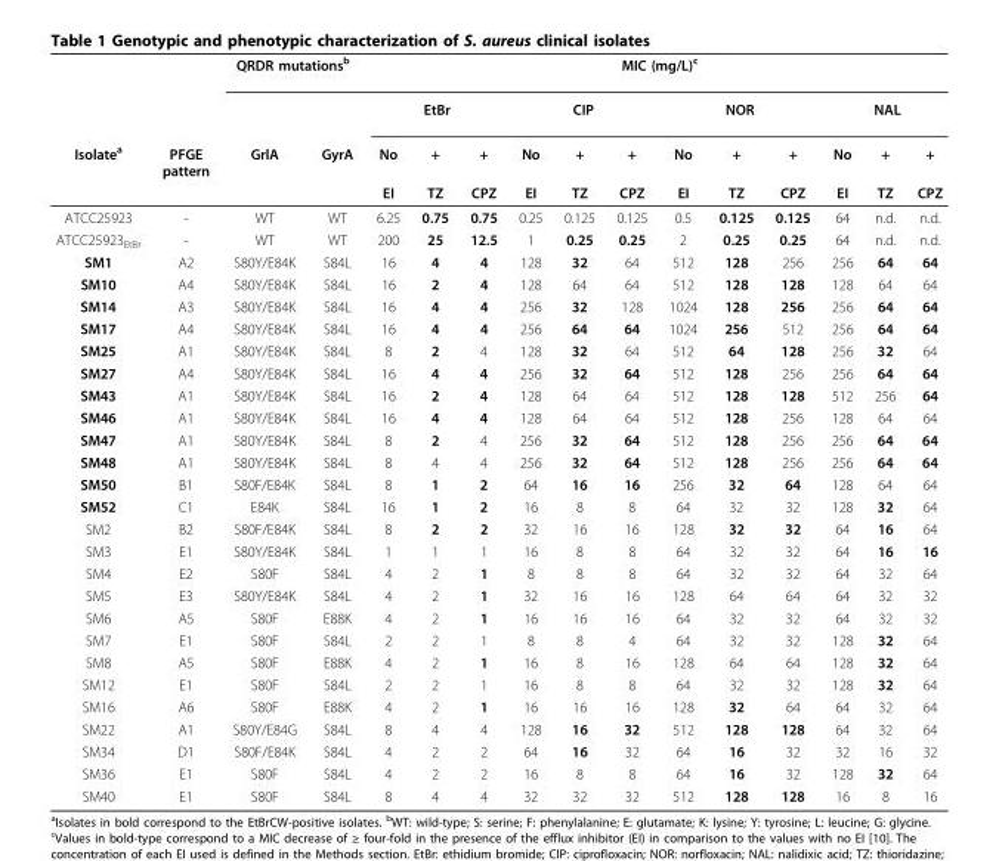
<table><thead><tr><td rowspan="4">Isolate<sup>a</sup></td><td rowspan="4">PFGE pattern</td><td colspan="2">QRDR mutations<sup>b</sup></td><td colspan="12">MIC (mg/L)<sup>c</sup></td></tr><tr><td rowspan="3">GrlA</td><td rowspan="3">GyrA</td><td colspan="3">EtBr</td><td colspan="3">CIP</td><td colspan="3">NOR</td><td colspan="3">NAL</td></tr><tr><td rowspan="2">No EI</td><td rowspan="2">+ TZ</td><td rowspan="2">+ CPZ</td><td rowspan="2">No EI</td><td rowspan="2">+ TZ</td><td rowspan="2">+ CPZ</td><td rowspan="2">No EI</td><td rowspan="2">+ TZ</td><td rowspan="2">+ CPZ</td><td rowspan="2">No EI</td><td rowspan="2">+ TZ</td><td rowspan="2">+ CPZ</td></tr><tr></tr></thead><tbody><tr><td>ATCC25923</td><td>-</td><td>WT</td><td>WT</td><td>6.25</td><td>0.75</td><td>0.75</td><td>0.25</td><td>0.125</td><td>0.125</td><td>0.5</td><td>0.125</td><td>0.125</td><td>64</td><td>n.d.</td><td>n.d.</td></tr><tr><td>ATCC25923<sub>EtBr</sub></td><td>-</td><td>WT</td><td>WT</td><td>200</td><td>25</td><td>12.5</td><td>1</td><td>0.25</td><td>0.25</td><td>2</td><td>0.25</td><td>0.25</td><td>64</td><td>n.d.</td><td>n.d.</td></tr><tr><td>SM1</td><td>A2</td><td>S80Y/E84K</td><td>S84L</td><td>16</td><td>4</td><td>4</td><td>128</td><td>32</td><td>64</td><td>512</td><td>128</td><td>256</td><td>256</td><td>64</td><td>64</td></tr><tr><td>SM10</td><td>A4</td><td>S80Y/E84K</td><td>S84L</td><td>16</td><td>2</td><td>4</td><td>128</td><td>64</td><td>64</td><td>512</td><td>128</td><td>128</td><td>128</td><td>64</td><td>64</td></tr><tr><td>SM14</td><td>A3</td><td>S80Y/E84K</td><td>S84L</td><td>16</td><td>4</td><td>4</td><td>256</td><td>32</td><td>128</td><td>1024</td><td>128</td><td>256</td><td>256</td><td>64</td><td>64</td></tr><tr><td>SM17</td><td>A4</td><td>S80Y/E84K</td><td>S84L</td><td>16</td><td>4</td><td>4</td><td>256</td><td>64</td><td>64</td><td>1024</td><td>256</td><td>512</td><td>256</td><td>64</td><td>64</td></tr><tr><td>SM25</td><td>A1</td><td>S80Y/E84K</td><td>S84L</td><td>8</td><td>2</td><td>4</td><td>128</td><td>32</td><td>64</td><td>512</td><td>64</td><td>128</td><td>256</td><td>32</td><td>64</td></tr><tr><td>SM27</td><td>A4</td><td>S80Y/E84K</td><td>S84L</td><td>16</td><td>4</td><td>4</td><td>256</td><td>32</td><td>64</td><td>512</td><td>128</td><td>256</td><td>256</td><td>64</td><td>64</td></tr><tr><td>SM43</td><td>A1</td><td>S80Y/E84K</td><td>S84L</td><td>16</td><td>2</td><td>4</td><td>128</td><td>64</td><td>64</td><td>512</td><td>128</td><td>128</td><td>512</td><td>256</td><td>64</td></tr><tr><td>SM46</td><td>A1</td><td>S80Y/E84K</td><td>S84L</td><td>16</td><td>4</td><td>4</td><td>128</td><td>64</td><td>64</td><td>512</td><td>128</td><td>256</td><td>128</td><td>64</td><td>64</td></tr><tr><td>SM47</td><td>A1</td><td>S80Y/E84K</td><td>S84L</td><td>8</td><td>2</td><td>4</td><td>256</td><td>32</td><td>64</td><td>512</td><td>128</td><td>256</td><td>256</td><td>64</td><td>64</td></tr><tr><td>SM48</td><td>A1</td><td>S80Y/E84K</td><td>S84L</td><td>8</td><td>4</td><td>4</td><td>256</td><td>32</td><td>64</td><td>512</td><td>128</td><td>256</td><td>256</td><td>64</td><td>64</td></tr><tr><td>SM50</td><td>B1</td><td>S80F/E84K</td><td>S84L</td><td>8</td><td>1</td><td>2</td><td>64</td><td>16</td><td>16</td><td>256</td><td>32</td><td>64</td><td>128</td><td>64</td><td>64</td></tr><tr><td>SM52</td><td>C1</td><td>E84K</td><td>S84L</td><td>16</td><td>1</td><td>2</td><td>16</td><td>8</td><td>8</td><td>64</td><td>32</td><td>32</td><td>128</td><td>32</td><td>64</td></tr><tr><td>SM2</td><td>B2</td><td>S80F/E84K</td><td>S84L</td><td>8</td><td>2</td><td>2</td><td>32</td><td>16</td><td>16</td><td>128</td><td>32</td><td>32</td><td>64</td><td>16</td><td>64</td></tr><tr><td>SM3</td><td>E1</td><td>S80Y/E84K</td><td>S84L</td><td>1</td><td>1</td><td>1</td><td>16</td><td>8</td><td>8</td><td>64</td><td>32</td><td>32</td><td>64</td><td>16</td><td>16</td></tr><tr><td>SM4</td><td>E2</td><td>S80F</td><td>S84L</td><td>4</td><td>2</td><td>1</td><td>8</td><td>8</td><td>8</td><td>64</td><td>32</td><td>32</td><td>64</td><td>32</td><td>64</td></tr><tr><td>SM5</td><td>E3</td><td>S80Y/E84K</td><td>S84L</td><td>4</td><td>2</td><td>1</td><td>32</td><td>16</td><td>16</td><td>128</td><td>64</td><td>64</td><td>64</td><td>32</td><td>32</td></tr><tr><td>SM6</td><td>A5</td><td>S80F</td><td>E88K</td><td>4</td><td>2</td><td>1</td><td>16</td><td>16</td><td>16</td><td>64</td><td>32</td><td>32</td><td>64</td><td>32</td><td>32</td></tr><tr><td>SM7</td><td>E1</td><td>S80F</td><td>S84L</td><td>2</td><td>2</td><td>1</td><td>8</td><td>8</td><td>4</td><td>64</td><td>32</td><td>32</td><td>128</td><td>32</td><td>64</td></tr><tr><td>SM8</td><td>A5</td><td>S80F</td><td>E88K</td><td>4</td><td>2</td><td>1</td><td>16</td><td>8</td><td>16</td><td>128</td><td>64</td><td>64</td><td>128</td><td>32</td><td>64</td></tr><tr><td>SM12</td><td>E1</td><td>S80F</td><td>S84L</td><td>2</td><td>2</td><td>1</td><td>16</td><td>8</td><td>8</td><td>64</td><td>32</td><td>32</td><td>128</td><td>32</td><td>64</td></tr><tr><td>SM16</td><td>A6</td><td>S80F</td><td>E88K</td><td>4</td><td>2</td><td>1</td><td>16</td><td>16</td><td>16</td><td>128</td><td>32</td><td>64</td><td>64</td><td>32</td><td>64</td></tr><tr><td>SM22</td><td>A1</td><td>S80Y/E84G</td><td>S84L</td><td>8</td><td>4</td><td>4</td><td>128</td><td>16</td><td>32</td><td>512</td><td>128</td><td>128</td><td>64</td><td>32</td><td>64</td></tr><tr><td>SM34</td><td>D1</td><td>S80F/E84K</td><td>S84L</td><td>4</td><td>2</td><td>2</td><td>64</td><td>16</td><td>32</td><td>64</td><td>16</td><td>32</td><td>32</td><td>16</td><td>32</td></tr><tr><td>SM36</td><td>E1</td><td>S80F</td><td>S84L</td><td>4</td><td>2</td><td>2</td><td>16</td><td>8</td><td>8</td><td>64</td><td>16</td><td>32</td><td>128</td><td>32</td><td>64</td></tr><tr><td>SM40</td><td>E1</td><td>S80F</td><td>S84L</td><td>8</td><td>4</td><td>4</td><td>32</td><td>32</td><td>32</td><td>512</td><td>128</td><td>128</td><td>16</td><td>8</td><td>16</td></tr></tbody></table>